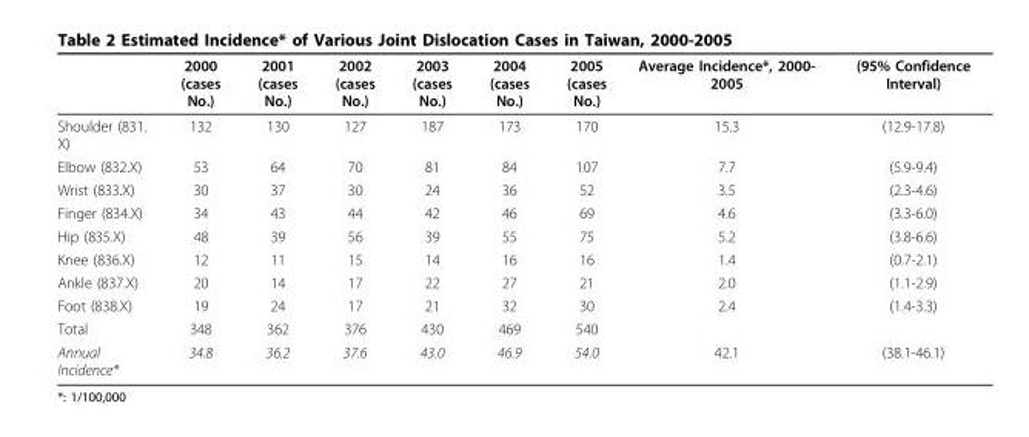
<table><thead><tr><td></td><td>2000 (cases No.)</td><td>2001 (cases No.)</td><td>2002 (cases No.)</td><td>2003 (cases No.)</td><td>2004 (cases No.)</td><td>2005 (cases No.)</td><td>Average Incidence*, 2000- 2005</td><td>(95% Confidence Interval)</td></tr></thead><tbody><tr><td>Shoulder (831. X)</td><td>132</td><td>130</td><td>127</td><td>187</td><td>173</td><td>170</td><td>15.3</td><td>(12.9-17.8)</td></tr><tr><td>Elbow (832.X)</td><td>53</td><td>64</td><td>70</td><td>81</td><td>84</td><td>107</td><td>7.7</td><td>(5.9-9.4)</td></tr><tr><td>Wrist (833.X)</td><td>30</td><td>37</td><td>30</td><td>24</td><td>36</td><td>52</td><td>3.5</td><td>(2.3-4.6)</td></tr><tr><td>Finger (834.X)</td><td>34</td><td>43</td><td>44</td><td>42</td><td>46</td><td>69</td><td>4.6</td><td>(3.3-6.0)</td></tr><tr><td>Hip (835.X)</td><td>48</td><td>39</td><td>56</td><td>39</td><td>55</td><td>75</td><td>5.2</td><td>(3.8-6.6)</td></tr><tr><td>Knee (836.X)</td><td>12</td><td>11</td><td>15</td><td>14</td><td>16</td><td>16</td><td>1.4</td><td>(0.7-2.1)</td></tr><tr><td>Ankle (837.X)</td><td>20</td><td>14</td><td>17</td><td>22</td><td>27</td><td>21</td><td>2.0</td><td>(1.1-2.9)</td></tr><tr><td>Foot (838.X)</td><td>19</td><td>24</td><td>17</td><td>21</td><td>32</td><td>30</td><td>2.4</td><td>(1.4-3.3)</td></tr><tr><td>Total</td><td>348</td><td>362</td><td>376</td><td>430</td><td>469</td><td>540</td><td></td><td></td></tr><tr><td>Annual Incidence*</td><td>34.8</td><td>36.2</td><td>37.6</td><td>43.0</td><td>46.9</td><td>54.0</td><td>42.1</td><td>(38.1-46.1)</td></tr></tbody></table>